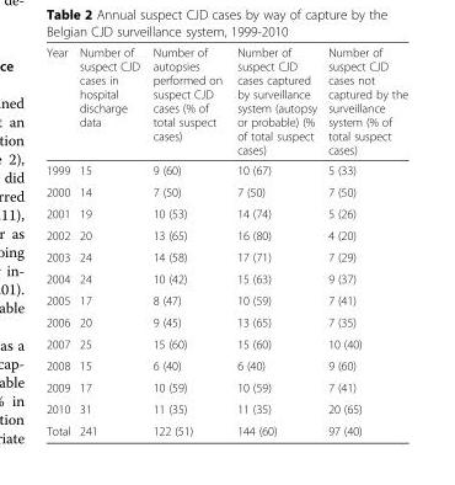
<table><thead><tr><td>Year</td><td>Number of suspect CJD cases in hospital discharge data</td><td>Number of autopsies performed on suspect CJD cases (% of total suspect cases)</td><td>Number of suspect CJD cases captured by surveillance system (autopsy or probable) (% of total suspect cases)</td><td>Number of suspect CJD cases not captured by the surveillance system (% of total suspect cases)</td></tr></thead><tbody><tr><td>1999</td><td>15</td><td>9 (60)</td><td>10 (67)</td><td>5 (33)</td></tr><tr><td>2000</td><td>14</td><td>7 (50)</td><td>7 (50)</td><td>7 (50)</td></tr><tr><td>2001</td><td>19</td><td>10 (53)</td><td>14 (74)</td><td>5 (26)</td></tr><tr><td>2002</td><td>20</td><td>13 (65)</td><td>16 (80)</td><td>4 (20)</td></tr><tr><td>2003</td><td>24</td><td>14 (58)</td><td>17 (71)</td><td>7 (29)</td></tr><tr><td>2004</td><td>24</td><td>10 (42)</td><td>15 (63)</td><td>9 (37)</td></tr><tr><td>2005</td><td>17</td><td>8 (47)</td><td>10 (59)</td><td>7 (41)</td></tr><tr><td>2006</td><td>20</td><td>9 (45)</td><td>13 (65)</td><td>7 (35)</td></tr><tr><td>2007</td><td>25</td><td>15 (60)</td><td>15 (60)</td><td>10 (40)</td></tr><tr><td>2008</td><td>15</td><td>6 (40)</td><td>6 (40)</td><td>9 (60)</td></tr><tr><td>2009</td><td>17</td><td>10 (59)</td><td>10 (59)</td><td>7 (41)</td></tr><tr><td>2010</td><td>31</td><td>11 (35)</td><td>11 (35)</td><td>20 (65)</td></tr><tr><td>Total</td><td>241</td><td>122 (51)</td><td>144 (60)</td><td>97 (40)</td></tr></tbody></table>